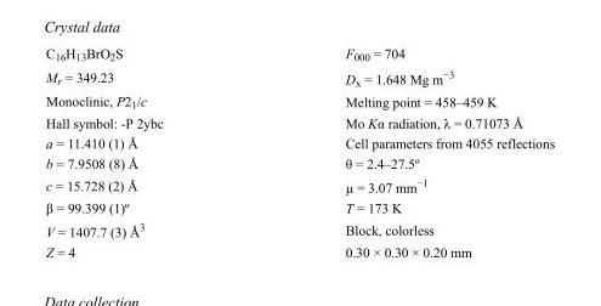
<table><tbody><tr><td>C<sub>16</sub>H<sub>13</sub>BrO<sub>2</sub>S</td><td>F000 = 704</td></tr><tr><td>M<sub>r</sub> = 349.23</td><td>D<sub>x</sub> = 1.648 Mg m<sup>−3</sup></td></tr><tr><td>Monoclinic, P2<sub>1</sub>/c</td><td>Melting point = 458–459 K</td></tr><tr><td>Hall symbol: -P 2ybc</td><td>Mo Kα radiation, λ = 0.71073 Å</td></tr><tr><td>a = 11.410 (1) Å</td><td>Cell parameters from 4055 reflections</td></tr><tr><td>b = 7.9508 (8) Å</td><td>θ = 2.4–27.5º</td></tr><tr><td>c = 15.728 (2) Å</td><td>µ = 3.07 mm<sup>−1</sup></td></tr><tr><td>β = 99.399 (1)º</td><td>T = 173 K</td></tr><tr><td>V = 1407.7 (3) Å<sup>3</sup></td><td>Block, colorless</td></tr><tr><td>Z = 4</td><td>0.30 × 0.30 × 0.20 mm</td></tr></tbody></table>